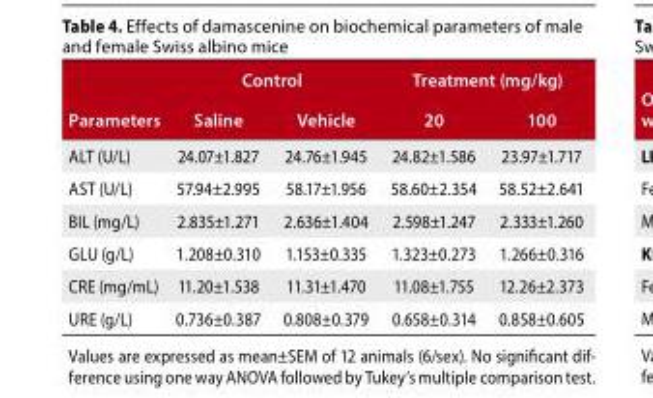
<table><thead><tr><td rowspan="2">Parameters</td><td colspan="2">Control</td><td colspan="2">Treatment (mg/kg)</td></tr><tr><td>Saline</td><td>Vehicle</td><td>20</td><td>100</td></tr></thead><tbody><tr><td>ALT (U/L)</td><td>24.07±1.827</td><td>24.76±1.945</td><td>24.82±1.586</td><td>23.97±1.717</td></tr><tr><td>AST (U/L)</td><td>57.94±2.995</td><td>58.17±1.956</td><td>58.60±2.354</td><td>58.52±2.641</td></tr><tr><td>BIL (mg/L)</td><td>2.835±1.271</td><td>2.636±1.404</td><td>2.598±1.247</td><td>2.333±1.260</td></tr><tr><td>GLU (g/L)</td><td>1.208±0.310</td><td>1.153±0.335</td><td>1.323±0.273</td><td>1.266±0.316</td></tr><tr><td>CRE (mg/mL)</td><td>11.20±1.538</td><td>11.31±1.470</td><td>11.08±1.755</td><td>12.26±2.373</td></tr><tr><td>URE (g/L)</td><td>0.736±0.387</td><td>0.808±0.379</td><td>0.658±0.314</td><td>0.858±0.605</td></tr></tbody></table>